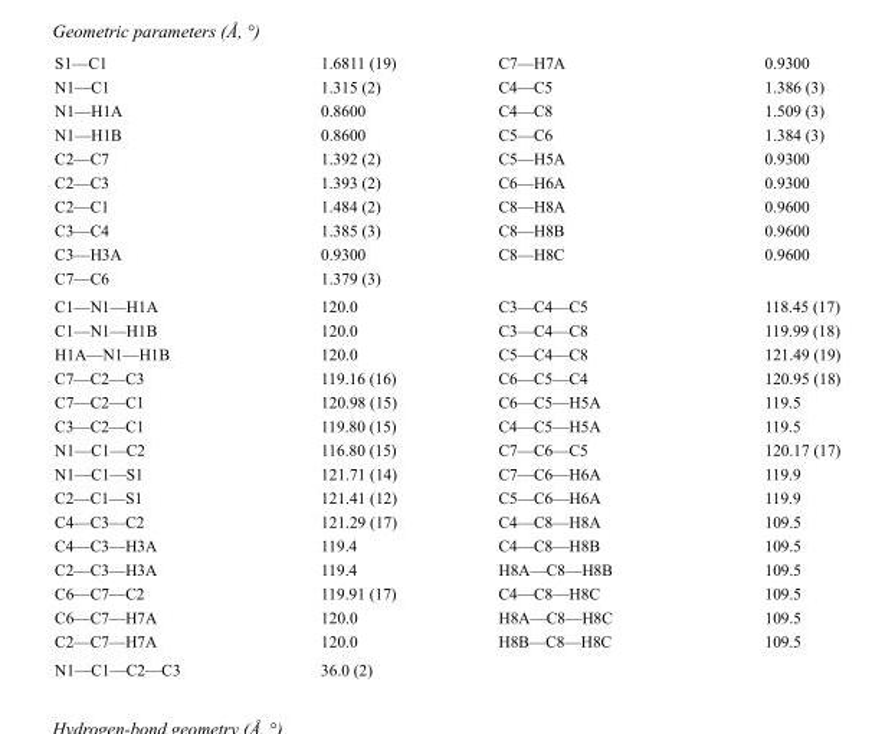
<table><tbody><tr><td>S1—C1</td><td>1.6811 (19)</td><td>C7—H7A</td><td>0.9300</td></tr><tr><td>N1—C1</td><td>1.315 (2)</td><td>C4—C5</td><td>1.386 (3)</td></tr><tr><td>N1—H1A</td><td>0.8600</td><td>C4—C8</td><td>1.509 (3)</td></tr><tr><td>N1—H1B</td><td>0.8600</td><td>C5—C6</td><td>1.384 (3)</td></tr><tr><td>C2—C7</td><td>1.392 (2)</td><td>C5—H5A</td><td>0.9300</td></tr><tr><td>C2—C3</td><td>1.393 (2)</td><td>C6—H6A</td><td>0.9300</td></tr><tr><td>C2—C1</td><td>1.484 (2)</td><td>C8—H8A</td><td>0.9600</td></tr><tr><td>C3—C4</td><td>1.385 (3)</td><td>C8—H8B</td><td>0.9600</td></tr><tr><td>C3—H3A</td><td>0.9300</td><td>C8—H8C</td><td>0.9600</td></tr><tr><td>C7—C6</td><td>1.379 (3)</td><td></td><td></td></tr><tr><td>C1—N1—H1A</td><td>120.0</td><td>C3—C4—C5</td><td>118.45 (17)</td></tr><tr><td>C1—N1—H1B</td><td>120.0</td><td>C3—C4—C8</td><td>119.99 (18)</td></tr><tr><td>H1A—N1—H1B</td><td>120.0</td><td>C5—C4—C8</td><td>121.49 (19)</td></tr><tr><td>C7—C2—C3</td><td>119.16 (16)</td><td>C6—C5—C4</td><td>120.95 (18)</td></tr><tr><td>C7—C2—C1</td><td>120.98 (15)</td><td>C6—C5—H5A</td><td>119.5</td></tr><tr><td>C3—C2—C1</td><td>119.80 (15)</td><td>C4—C5—H5A</td><td>119.5</td></tr><tr><td>N1—C1—C2</td><td>116.80 (15)</td><td>C7—C6—C5</td><td>120.17 (17)</td></tr><tr><td>N1—C1—S1</td><td>121.71 (14)</td><td>C7—C6—H6A</td><td>119.9</td></tr><tr><td>C2—C1—S1</td><td>121.41 (12)</td><td>C5—C6—H6A</td><td>119.9</td></tr><tr><td>C4—C3—C2</td><td>121.29 (17)</td><td>C4—C8—H8A</td><td>109.5</td></tr><tr><td>C4—C3—H3A</td><td>119.4</td><td>C4—C8—H8B</td><td>109.5</td></tr><tr><td>C2—C3—H3A</td><td>119.4</td><td>H8A—C8—H8B</td><td>109.5</td></tr><tr><td>C6—C7—C2</td><td>119.91 (17)</td><td>C4—C8—H8C</td><td>109.5</td></tr><tr><td>C6—C7—H7A</td><td>120.0</td><td>H8A—C8—H8C</td><td>109.5</td></tr><tr><td>C2—C7—H7A</td><td>120.0</td><td>H8B—C8—H8C</td><td>109.5</td></tr><tr><td>N1—C1—C2—C3</td><td>36.0 (2)</td><td></td><td></td></tr></tbody></table>